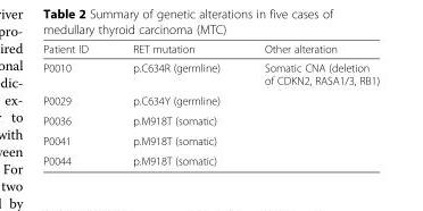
<table><thead><tr><td>Patient ID</td><td>RET mutation</td><td>Other alteration</td></tr></thead><tbody><tr><td>P0010</td><td>p.C634R (germline)</td><td>Somatic CNA (deletion of CDKN2, RASA1/3, RB1)</td></tr><tr><td>P0029</td><td>p.C634Y (germline)</td><td></td></tr><tr><td>P0036</td><td>p.M918T (somatic)</td><td></td></tr><tr><td>P0041</td><td>p.M918T (somatic)</td><td></td></tr><tr><td>P0044</td><td>p.M918T (somatic)</td><td></td></tr></tbody></table>